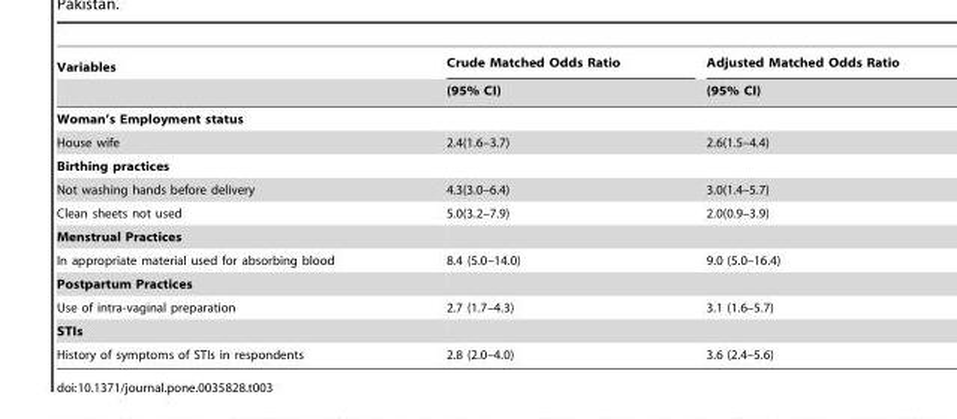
<table><thead><tr><td rowspan="2">Variables</td><td rowspan="2">Crude Matched Odds Ratio (95% CI)</td><td rowspan="2">Adjusted Matched Odds Ratio (95% CI)</td></tr><tr></tr></thead><tbody><tr><td colspan="3">Woman’s Employment status</td></tr><tr><td>House wife</td><td>2.4(1.6–3.7)</td><td>2.6(1.5–4.4)</td></tr><tr><td colspan="3">Birthing practices</td></tr><tr><td>Not washing hands before delivery</td><td>4.3(3.0–6.4)</td><td>3.0(1.4–5.7)</td></tr><tr><td>Clean sheets not used</td><td>5.0(3.2–7.9)</td><td>2.0(0.9–3.9)</td></tr><tr><td colspan="3">Menstrual Practices</td></tr><tr><td>In appropriate material used for absorbing blood</td><td>8.4 (5.0–14.0)</td><td>9.0 (5.0–16.4)</td></tr><tr><td colspan="3">Postpartum Practices</td></tr><tr><td>Use of intra-vaginal preparation</td><td>2.7 (1.7–4.3)</td><td>3.1 (1.6–5.7)</td></tr><tr><td colspan="3">STIs</td></tr><tr><td>History of symptoms of STIs in respondents</td><td>2.8 (2.0–4.0)</td><td>3.6 (2.4–5.6)</td></tr></tbody></table>